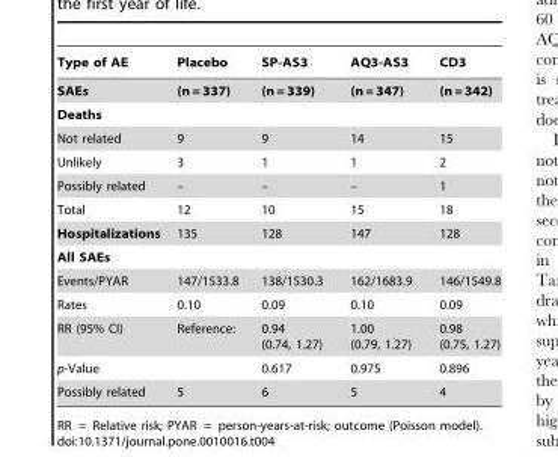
<table><thead><tr><td>Type of AE</td><td>Placebo</td><td>SP-AS3</td><td>AQ3-AS3</td><td>CD3</td></tr></thead><tbody><tr><td>SAEs</td><td>(n = 337)</td><td>(n = 339)</td><td>(n = 347)</td><td>(n = 342)</td></tr><tr><td colspan="5">Deaths</td></tr><tr><td>Not related</td><td>9</td><td>9</td><td>14</td><td>15</td></tr><tr><td>Unlikely</td><td>3</td><td>1</td><td>1</td><td>2</td></tr><tr><td>Possibly related</td><td>–</td><td>–</td><td>–</td><td>1</td></tr><tr><td>Total</td><td>12</td><td>10</td><td>15</td><td>18</td></tr><tr><td>Hospitalizations</td><td>135</td><td>128</td><td>147</td><td>128</td></tr><tr><td colspan="5">All SAEs</td></tr><tr><td>Events/PYAR</td><td>147/1533.8</td><td>138/1530.3</td><td>162/1683.9</td><td>146/1549.8</td></tr><tr><td>Rates</td><td>0.10</td><td>0.09</td><td>0.10</td><td>0.09</td></tr><tr><td>RR (95% CI)</td><td>Reference:</td><td>0.94 (0.74, 1.27)</td><td>1.00 (0.79, 1.27)</td><td>0.98 (0.75, 1.27)</td></tr><tr><td>p-Value</td><td></td><td>0.617</td><td>0.975</td><td>0.896</td></tr><tr><td>Possibly related</td><td>5</td><td>6</td><td>5</td><td>4</td></tr></tbody></table>